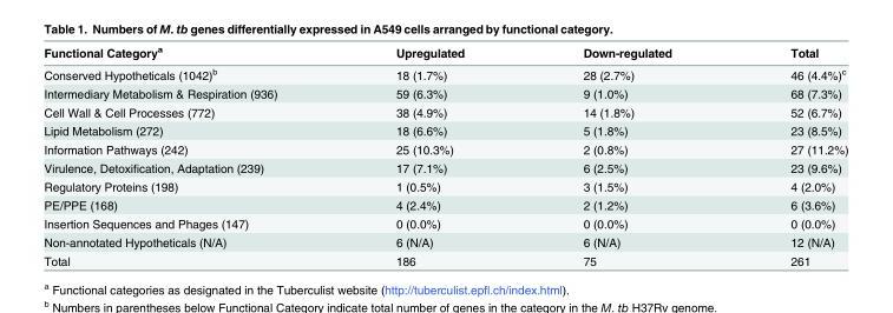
<table><thead><tr><td>Functional Category<sup>a</sup></td><td>Upregulated</td><td>Down-regulated</td><td>Total</td></tr></thead><tbody><tr><td>Conserved Hypotheticals (1042)<sup>b</sup></td><td>18 (1.7%)</td><td>28 (2.7%)</td><td>46 (4.4%)<sup>c</sup></td></tr><tr><td>Intermediary Metabolism &amp; Respiration (936)</td><td>59 (6.3%)</td><td>9 (1.0%)</td><td>68 (7.3%)</td></tr><tr><td>Cell Wall &amp; Cell Processes (772)</td><td>38 (4.9%)</td><td>14 (1.8%)</td><td>52 (6.7%)</td></tr><tr><td>Lipid Metabolism (272)</td><td>18 (6.6%)</td><td>5 (1.8%)</td><td>23 (8.5%)</td></tr><tr><td>Information Pathways (242)</td><td>25 (10.3%)</td><td>2 (0.8%)</td><td>27 (11.2%)</td></tr><tr><td>Virulence, Detoxification, Adaptation (239)</td><td>17 (7.1%)</td><td>6 (2.5%)</td><td>23 (9.6%)</td></tr><tr><td>Regulatory Proteins (198)</td><td>1 (0.5%)</td><td>3 (1.5%)</td><td>4 (2.0%)</td></tr><tr><td>PE/PPE (168)</td><td>4 (2.4%)</td><td>2 (1.2%)</td><td>6 (3.6%)</td></tr><tr><td>Insertion Sequences and Phages (147)</td><td>0 (0.0%)</td><td>0 (0.0%)</td><td>0 (0.0%)</td></tr><tr><td>Non-annotated Hypotheticals (N/A)</td><td>6 (N/A)</td><td>6 (N/A)</td><td>12 (N/A)</td></tr><tr><td>Total</td><td>186</td><td>75</td><td>261</td></tr></tbody></table>